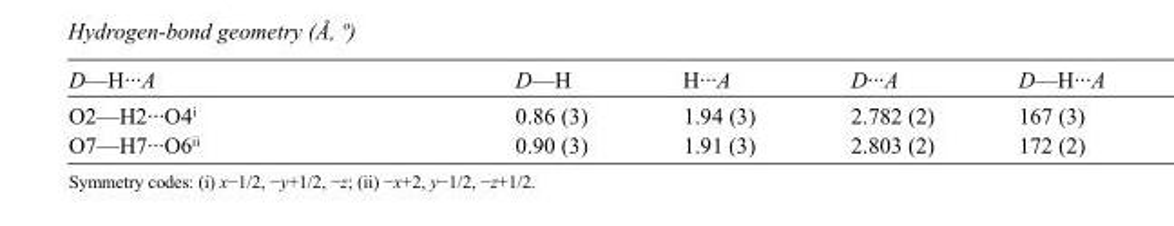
<table><tbody><tr><td>D—H···A</td><td>D—H</td><td>H···A</td><td>D···A</td><td>D—H···A</td></tr><tr><td>O2—H2···O4<sup>i</sup></td><td>0.86 (3)</td><td>1.94 (3)</td><td>2.782 (2)</td><td>167 (3)</td></tr><tr><td>O7—H7···O6<sup>ii</sup></td><td>0.90 (3)</td><td>1.91 (3)</td><td>2.803 (2)</td><td>172 (2)</td></tr></tbody></table>